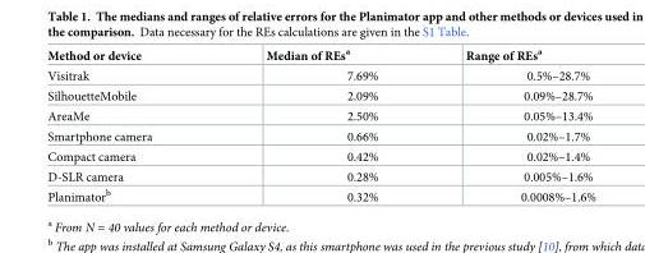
<table><thead><tr><td>Method or device</td><td>Median of REs<sup>a</sup></td><td>Range of REs<sup>a</sup></td></tr></thead><tbody><tr><td>Visitrak</td><td>7.69%</td><td>0.5%–28.7%</td></tr><tr><td>SilhouetteMobile</td><td>2.09%</td><td>0.09%–28.7%</td></tr><tr><td>AreaMe</td><td>2.50%</td><td>0.05%–13.4%</td></tr><tr><td>Smartphone camera</td><td>0.66%</td><td>0.02%–1.7%</td></tr><tr><td>Compact camera</td><td>0.42%</td><td>0.02%–1.4%</td></tr><tr><td>D-SLR camera</td><td>0.28%</td><td>0.005%–1.6%</td></tr><tr><td>Planimator<sup>b</sup></td><td>0.32%</td><td>0.0008%–1.6%</td></tr></tbody></table>